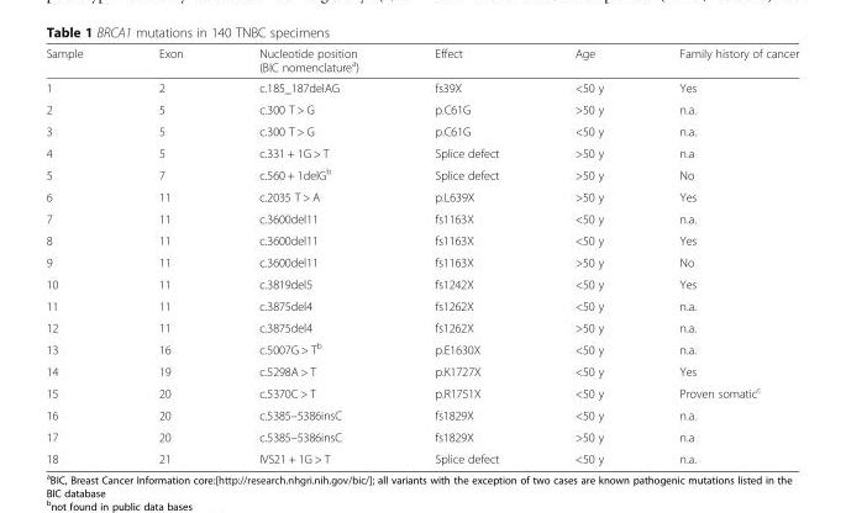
<table><thead><tr><td>Sample</td><td>Exon</td><td>Nucleotide position (BIC nomenclature<sup>a</sup>)</td><td>Effect</td><td>Age</td><td>Family history of cancer</td></tr></thead><tbody><tr><td>1</td><td>2</td><td>c.185_187delAG</td><td>fs39X</td><td>&lt;50 y</td><td>Yes</td></tr><tr><td>2</td><td>5</td><td>c.300 T &gt; G</td><td>p.C61G</td><td>&gt;50 y</td><td>n.a.</td></tr><tr><td>3</td><td>5</td><td>c.300 T &gt; G</td><td>p.C61G</td><td>&lt;50 y</td><td>n.a.</td></tr><tr><td>4</td><td>5</td><td>c.331 + 1G &gt; T</td><td>Splice defect</td><td>&gt;50 y</td><td>n.a</td></tr><tr><td>5</td><td>7</td><td>c.560 + 1delG<sup>b</sup></td><td>Splice defect</td><td>&gt;50 y</td><td>No</td></tr><tr><td>6</td><td>11</td><td>c.2035 T &gt; A</td><td>p.L639X</td><td>&gt;50 y</td><td>Yes</td></tr><tr><td>7</td><td>11</td><td>c.3600del11</td><td>fs1163X</td><td>&lt;50 y</td><td>n.a.</td></tr><tr><td>8</td><td>11</td><td>c.3600del11</td><td>fs1163X</td><td>&lt;50 y</td><td>Yes</td></tr><tr><td>9</td><td>11</td><td>c.3600del11</td><td>fs1163X</td><td>&gt;50 y</td><td>No</td></tr><tr><td>10</td><td>11</td><td>c.3819del5</td><td>fs1242X</td><td>&lt;50 y</td><td>Yes</td></tr><tr><td>11</td><td>11</td><td>c.3875del4</td><td>fs1262X</td><td>&lt;50 y</td><td>n.a.</td></tr><tr><td>12</td><td>11</td><td>c.3875del4</td><td>fs1262X</td><td>&gt;50 y</td><td>n.a.</td></tr><tr><td>13</td><td>16</td><td>c.5007G &gt; T<sup>b</sup></td><td>p.E1630X</td><td>&lt;50 y</td><td>n.a.</td></tr><tr><td>14</td><td>19</td><td>c.5298A &gt; T</td><td>p.K1727X</td><td>&lt;50 y</td><td>Yes</td></tr><tr><td>15</td><td>20</td><td>c.5370C &gt; T</td><td>p.R1751X</td><td>&lt;50 y</td><td>Proven somatic<sup>c</sup></td></tr><tr><td>16</td><td>20</td><td>c.5385–5386insC</td><td>fs1829X</td><td>&lt;50 y</td><td>n.a.</td></tr><tr><td>17</td><td>20</td><td>c.5385–5386insC</td><td>fs1829X</td><td>&gt;50 y</td><td>n.a</td></tr><tr><td>18</td><td>21</td><td>IVS21 + 1G &gt; T</td><td>Splice defect</td><td>&lt;50 y</td><td>n.a.</td></tr></tbody></table>